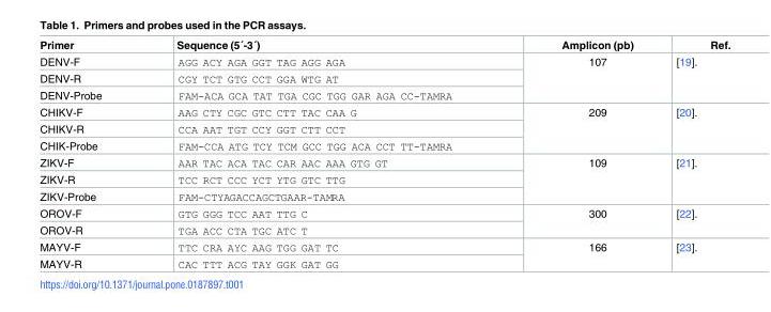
<table><thead><tr><td>Primer</td><td>Sequence (5´-3´)</td><td>Amplicon (pb)</td><td>Ref.</td></tr></thead><tbody><tr><td>DENV-F</td><td>AGG ACY AGA GGT TAG AGG AGA</td><td rowspan="3">107</td><td rowspan="3">[19].</td></tr><tr><td>DENV-R</td><td>CGY TCT GTG CCT GGA WTG AT</td></tr><tr><td>DENV-Probe</td><td>FAM-ACA GCA TAT TGA CGC TGG GAR AGA CC-TAMRA</td></tr><tr><td>CHIKV-F</td><td>AAG CTY CGC GTC CTT TAC CAA G</td><td rowspan="3">209</td><td rowspan="3">[20].</td></tr><tr><td>CHIKV-R</td><td>CCA AAT TGT CCY GGT CTT CCT</td></tr><tr><td>CHIK-Probe</td><td>FAM-CCA ATG TCY TCM GCC TGG ACA CCT TT-TAMRA</td></tr><tr><td>ZIKV-F</td><td>AAR TAC ACA TAC CAR AAC AAA GTG GT</td><td rowspan="3">109</td><td rowspan="3">[21].</td></tr><tr><td>ZIKV-R</td><td>TCC RCT CCC YCT YTG GTC TTG</td></tr><tr><td>ZIKV-Probe</td><td>FAM-CTYAGACCAGCTGAAR-TAMRA</td></tr><tr><td>OROV-F</td><td>GTG GGG TCC AAT TTG C</td><td rowspan="2">300</td><td rowspan="2">[22].</td></tr><tr><td>OROV-R</td><td>TGA ACC CTA TGC ATC T</td></tr><tr><td>MAYV-F</td><td>TTC CRA AYC AAG TGG GAT TC</td><td rowspan="2">166</td><td rowspan="2">[23].</td></tr><tr><td>MAYV-R</td><td>CAC TTT ACG TAY GGK GAT GG</td></tr></tbody></table>